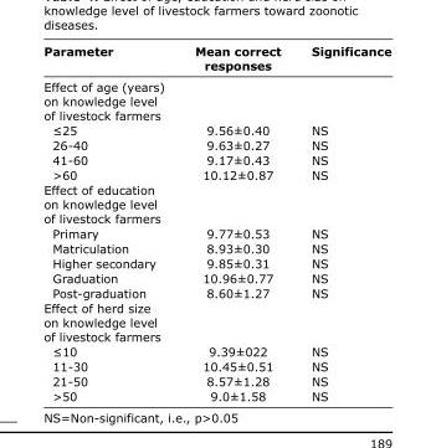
<table><thead><tr><td>Parameter</td><td>Mean correct responses</td><td>Significance</td></tr></thead><tbody><tr><td colspan="3">Effect of age (years) on knowledge level of livestock farmers</td></tr><tr><td>≤25</td><td>9.56±0.40</td><td>NS</td></tr><tr><td>26-40</td><td>9.63±0.27</td><td>NS</td></tr><tr><td>41-60</td><td>9.17±0.43</td><td>NS</td></tr><tr><td>&gt;60</td><td>10.12±0.87</td><td>NS</td></tr><tr><td colspan="3">Effect of education on knowledge level of livestock farmers</td></tr><tr><td>Primary</td><td>9.77±0.53</td><td>NS</td></tr><tr><td>Matriculation</td><td>8.93±0.30</td><td>NS</td></tr><tr><td>Higher secondary</td><td>9.85±0.31</td><td>NS</td></tr><tr><td>Graduation</td><td>10.96±0.77</td><td>NS</td></tr><tr><td>Post-graduation</td><td>8.60±1.27</td><td>NS</td></tr><tr><td colspan="3">Effect of herd size on knowledge level of livestock farmers</td></tr><tr><td>≤10</td><td>9.39±022</td><td>NS</td></tr><tr><td>11-30</td><td>10.45±0.51</td><td>NS</td></tr><tr><td>21-50</td><td>8.57±1.28</td><td>NS</td></tr><tr><td>&gt;50</td><td>9.0±1.58</td><td>NS</td></tr></tbody></table>